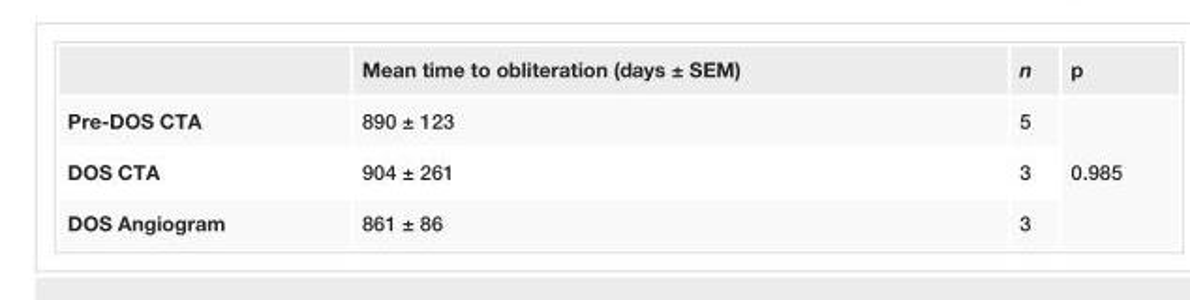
<table><thead><tr><td></td><td>Mean time to obliteration (days ± SEM)</td><td>n</td><td>p</td></tr></thead><tbody><tr><td>Pre-DOS CTA</td><td>890 ± 123</td><td>5</td><td rowspan="3">0.985</td></tr><tr><td>DOS CTA</td><td>904 ± 261</td><td>3</td></tr><tr><td>DOS Angiogram</td><td>861 ± 86</td><td>3</td></tr></tbody></table>